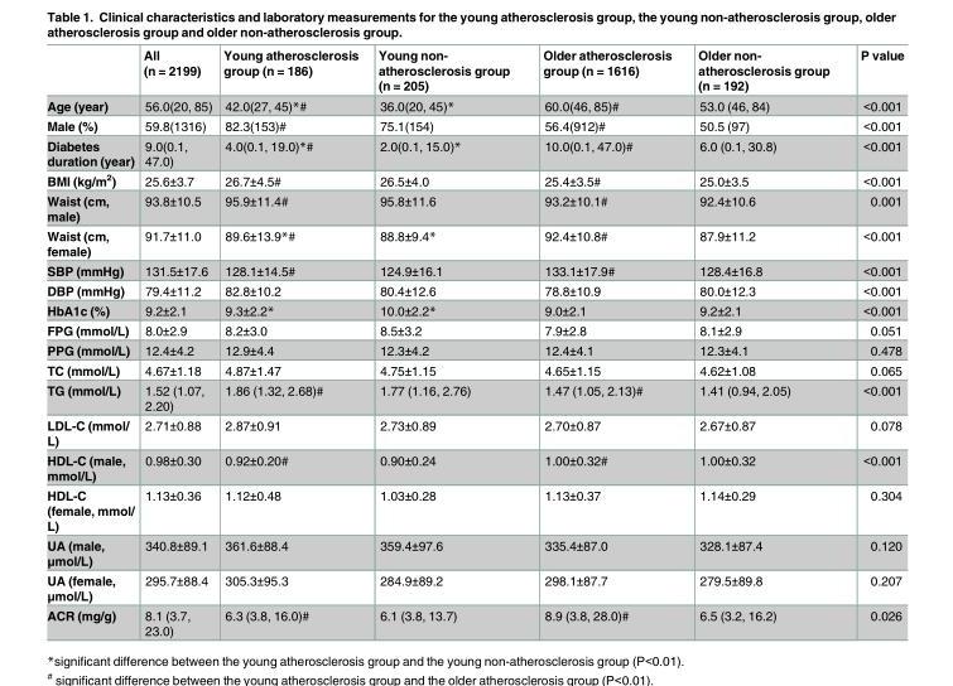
<table><thead><tr><td></td><td>All (n = 2199)</td><td>Young atherosclerosis group (n = 186)</td><td>Young non- atherosclerosis group (n = 205)</td><td>Older atherosclerosis group (n = 1616)</td><td>Older non- atherosclerosis group (n = 192)</td><td>P value</td></tr></thead><tbody><tr><td>Age (year)</td><td>56.0(20, 85)</td><td>42.0(27, 45)*#</td><td>36.0(20, 45)*</td><td>60.0(46, 85)#</td><td>53.0 (46, 84)</td><td>&lt;0.001</td></tr><tr><td>Male (%)</td><td>59.8(1316)</td><td>82.3(153)#</td><td>75.1(154)</td><td>56.4(912)#</td><td>50.5 (97)</td><td>&lt;0.001</td></tr><tr><td>Diabetes duration (year)</td><td>9.0(0.1, 47.0)</td><td>4.0(0.1, 19.0)*#</td><td>2.0(0.1, 15.0)*</td><td>10.0(0.1, 47.0)#</td><td>6.0 (0.1, 30.8)</td><td>&lt;0.001</td></tr><tr><td>BMI (kg/m<sup>2</sup>)</td><td>25.6±3.7</td><td>26.7±4.5#</td><td>26.5±4.0</td><td>25.4±3.5#</td><td>25.0±3.5</td><td>&lt;0.001</td></tr><tr><td>Waist (cm, male)</td><td>93.8±10.5</td><td>95.9±11.4#</td><td>95.8±11.6</td><td>93.2±10.1#</td><td>92.4±10.6</td><td>0.001</td></tr><tr><td>Waist (cm, female)</td><td>91.7±11.0</td><td>89.6±13.9*#</td><td>88.8±9.4*</td><td>92.4±10.8#</td><td>87.9±11.2</td><td>&lt;0.001</td></tr><tr><td>SBP (mmHg)</td><td>131.5±17.6</td><td>128.1±14.5#</td><td>124.9±16.1</td><td>133.1±17.9#</td><td>128.4±16.8</td><td>&lt;0.001</td></tr><tr><td>DBP (mmHg)</td><td>79.4±11.2</td><td>82.8±10.2</td><td>80.4±12.6</td><td>78.8±10.9</td><td>80.0±12.3</td><td>&lt;0.001</td></tr><tr><td>HbA1c (%)</td><td>9.2±2.1</td><td>9.3±2.2*</td><td>10.0±2.2*</td><td>9.0±2.1</td><td>9.2±2.1</td><td>&lt;0.001</td></tr><tr><td>FPG (mmol/L)</td><td>8.0±2.9</td><td>8.2±3.0</td><td>8.5±3.2</td><td>7.9±2.8</td><td>8.1±2.9</td><td>0.051</td></tr><tr><td>PPG (mmol/L)</td><td>12.4±4.2</td><td>12.9±4.4</td><td>12.3±4.2</td><td>12.4±4.1</td><td>12.3±4.1</td><td>0.478</td></tr><tr><td>TC (mmol/L)</td><td>4.67±1.18</td><td>4.87±1.47</td><td>4.75±1.15</td><td>4.65±1.15</td><td>4.62±1.08</td><td>0.065</td></tr><tr><td>TG (mmol/L)</td><td>1.52 (1.07, 2.20)</td><td>1.86 (1.32, 2.68)#</td><td>1.77 (1.16, 2.76)</td><td>1.47 (1.05, 2.13)#</td><td>1.41 (0.94, 2.05)</td><td>&lt;0.001</td></tr><tr><td>LDL-C (mmol/ L)</td><td>2.71±0.88</td><td>2.87±0.91</td><td>2.73±0.89</td><td>2.70±0.87</td><td>2.67±0.87</td><td>0.078</td></tr><tr><td>HDL-C (male, mmol/L)</td><td>0.98±0.30</td><td>0.92±0.20#</td><td>0.90±0.24</td><td>1.00±0.32#</td><td>1.00±0.32</td><td>&lt;0.001</td></tr><tr><td>HDL-C (female, mmol/ L)</td><td>1.13±0.36</td><td>1.12±0.48</td><td>1.03±0.28</td><td>1.13±0.37</td><td>1.14±0.29</td><td>0.304</td></tr><tr><td>UA (male, μmol/L)</td><td>340.8±89.1</td><td>361.6±88.4</td><td>359.4±97.6</td><td>335.4±87.0</td><td>328.1±87.4</td><td>0.120</td></tr><tr><td>UA (female, μmol/L)</td><td>295.7±88.4</td><td>305.3±95.3</td><td>284.9±89.2</td><td>298.1±87.7</td><td>279.5±89.8</td><td>0.207</td></tr><tr><td>ACR (mg/g)</td><td>8.1 (3.7, 23.0)</td><td>6.3 (3.8, 16.0)#</td><td>6.1 (3.8, 13.7)</td><td>8.9 (3.8, 28.0)#</td><td>6.5 (3.2, 16.2)</td><td>0.026</td></tr></tbody></table>